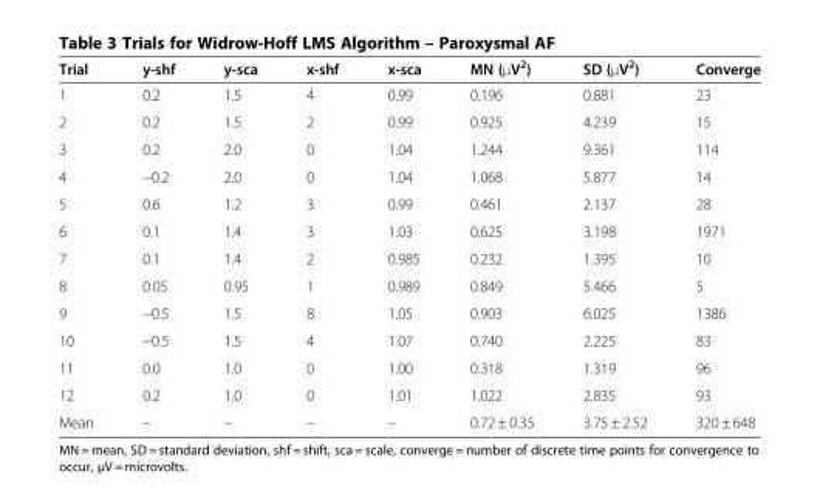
<table><thead><tr><td>Trial</td><td>y-shf</td><td>y-sca</td><td>x-shf</td><td>x-sca</td><td>MN (μV<sup>2</sup>)</td><td>SD (μV<sup>2</sup>)</td><td>Converge</td></tr></thead><tbody><tr><td>1</td><td>0.2</td><td>1.5</td><td>4</td><td>0.99</td><td>0.196</td><td>0.881</td><td>23</td></tr><tr><td>2</td><td>0.2</td><td>1.5</td><td>2</td><td>0.99</td><td>0.925</td><td>4.239</td><td>15</td></tr><tr><td>3</td><td>0.2</td><td>2.0</td><td>0</td><td>1.04</td><td>1.244</td><td>9.361</td><td>114</td></tr><tr><td>4</td><td>−0.2</td><td>2.0</td><td>0</td><td>1.04</td><td>1.068</td><td>5.877</td><td>14</td></tr><tr><td>5</td><td>0.6</td><td>1.2</td><td>3</td><td>0.99</td><td>0.461</td><td>2.137</td><td>28</td></tr><tr><td>6</td><td>0.1</td><td>1.4</td><td>3</td><td>1.03</td><td>0.625</td><td>3.198</td><td>1971</td></tr><tr><td>7</td><td>0.1</td><td>1.4</td><td>2</td><td>0.985</td><td>0.232</td><td>1.395</td><td>10</td></tr><tr><td>8</td><td>0.05</td><td>0.95</td><td>1</td><td>0.989</td><td>0.849</td><td>5.466</td><td>5</td></tr><tr><td>9</td><td>−0.5</td><td>1.5</td><td>8</td><td>1.05</td><td>0.903</td><td>6.025</td><td>1386</td></tr><tr><td>10</td><td>−0.5</td><td>1.5</td><td>4</td><td>1.07</td><td>0.740</td><td>2.225</td><td>83</td></tr><tr><td>11</td><td>0.0</td><td>1.0</td><td>0</td><td>1.00</td><td>0.318</td><td>1.319</td><td>96</td></tr><tr><td>12</td><td>0.2</td><td>1.0</td><td>0</td><td>1.01</td><td>1.022</td><td>2.835</td><td>93</td></tr><tr><td>Mean</td><td>–</td><td>–</td><td>–</td><td>–</td><td>0.72 ± 0.35</td><td>3.75 ± 2.52</td><td>320 ± 648</td></tr></tbody></table>